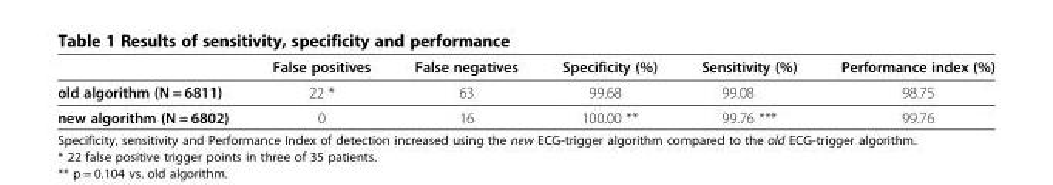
<table><thead><tr><td></td><td>False positives</td><td>False negatives</td><td>Specificity (%)</td><td>Sensitivity (%)</td><td>Performance index (%)</td></tr></thead><tbody><tr><td>old algorithm (N = 6811)</td><td>22 *</td><td>63</td><td>99.68</td><td>99.08</td><td>98.75</td></tr><tr><td>new algorithm (N = 6802)</td><td>0</td><td>16</td><td>100.00 **</td><td>99.76 ***</td><td>99.76</td></tr></tbody></table>